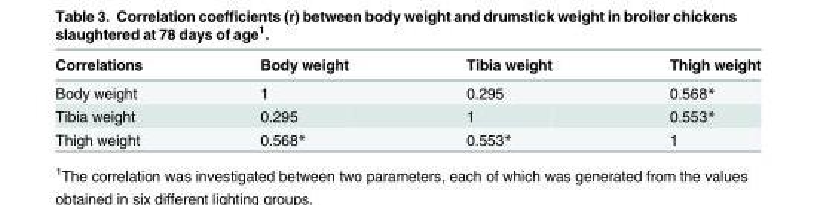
<table><thead><tr><td>Correlations</td><td>Body weight</td><td>Tibia weight</td><td>Thigh weight</td></tr></thead><tbody><tr><td>Body weight</td><td>1</td><td>0.295</td><td>0.568*</td></tr><tr><td>Tibia weight</td><td>0.295</td><td>1</td><td>0.553*</td></tr><tr><td>Thigh weight</td><td>0.568*</td><td>0.553*</td><td>1</td></tr></tbody></table>